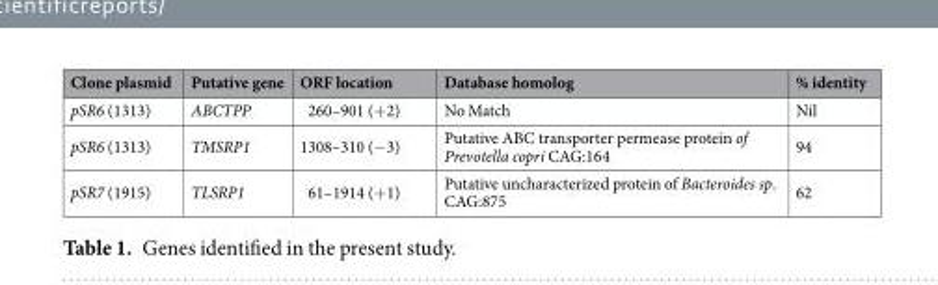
<table><thead><tr><td>Clone plasmid</td><td>Putative gene</td><td>ORF location</td><td>Database homolog</td><td>% identity</td></tr></thead><tbody><tr><td>pSR6 (1313)</td><td>ABCTPP</td><td>260–901 (+2)</td><td>No Match</td><td>Nil</td></tr><tr><td>pSR6 (1313)</td><td>TMSRP1</td><td>1308–310 (−3)</td><td>Putative ABC transporter permease protein of Prevotella copri CAG:164</td><td>94</td></tr><tr><td>pSR7 (1915)</td><td>TLSRP1</td><td>61–1914 (+1)</td><td>Putative uncharacterized protein of Bacteroides sp. CAG:875</td><td>62</td></tr></tbody></table>